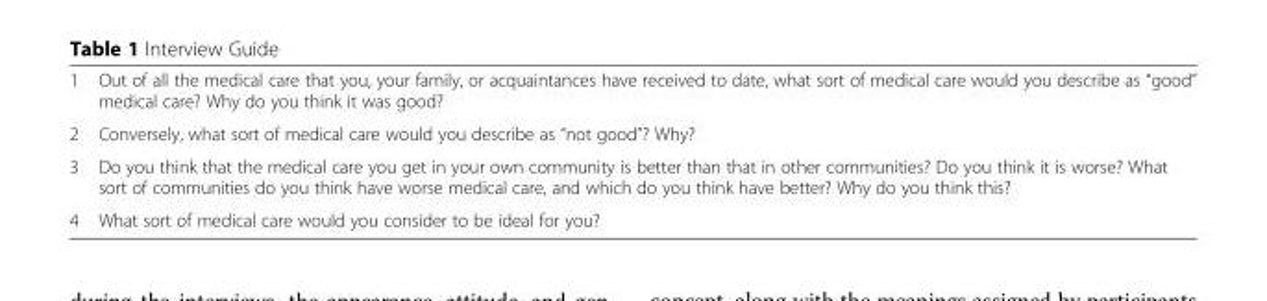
<table><tbody><tr><td>1</td><td>Out of all the medical care that you, your family, or acquaintances have received to date, what sort of medical care would you describe as “good” medical care? Why do you think it was good?</td></tr><tr><td>2</td><td>Conversely, what sort of medical care would you describe as “not good”? Why?</td></tr><tr><td>3</td><td>Do you think that the medical care you get in your own community is better than that in other communities? Do you think it is worse? What sort of communities do you think have worse medical care, and which do you think have better? Why do you think this?</td></tr><tr><td>4</td><td>What sort of medical care would you consider to be ideal for you?</td></tr></tbody></table>